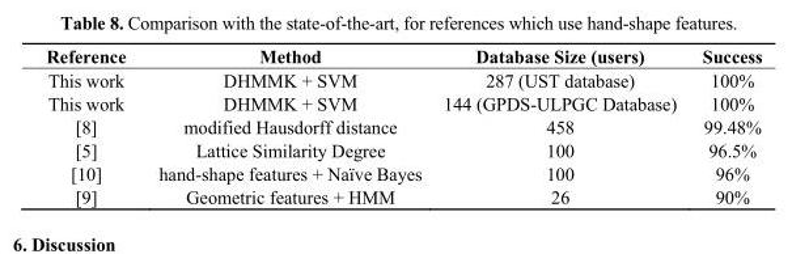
<table><thead><tr><td>Reference</td><td>Method</td><td>Database Size (users)</td><td>Success</td></tr></thead><tbody><tr><td>This work</td><td>DHMMK + SVM</td><td>287 (UST database)</td><td>100%</td></tr><tr><td>This work</td><td>DHMMK + SVM</td><td>144 (GPDS-ULPGC Database)</td><td>100%</td></tr><tr><td>[8]</td><td>modified Hausdorff distance</td><td>458</td><td>99.48%</td></tr><tr><td>[5]</td><td>Lattice Similarity Degree</td><td>100</td><td>96.5%</td></tr><tr><td>[10]</td><td>hand-shape features + Naïve Bayes</td><td>100</td><td>96%</td></tr><tr><td>[9]</td><td>Geometric features + HMM</td><td>26</td><td>90%</td></tr></tbody></table>